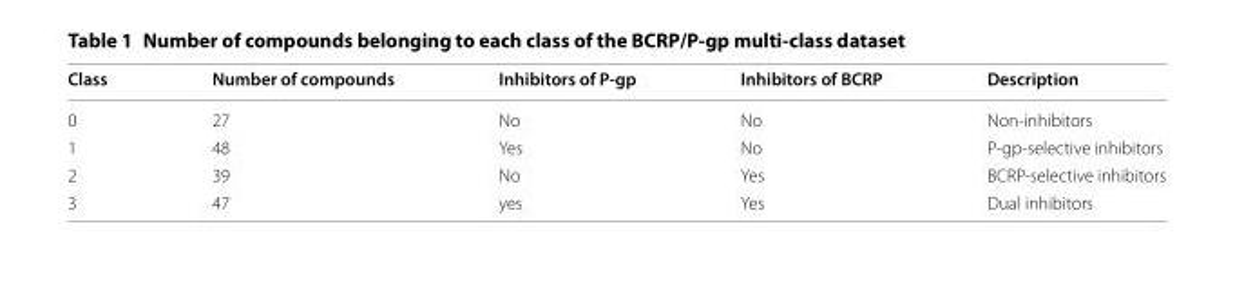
<table><thead><tr><td>Class</td><td>Number of compounds</td><td>Inhibitors of P-gp</td><td>Inhibitors of BCRP</td><td>Description</td></tr></thead><tbody><tr><td>0</td><td>27</td><td>No</td><td>No</td><td>Non-inhibitors</td></tr><tr><td>1</td><td>48</td><td>Yes</td><td>No</td><td>P-gp-selective inhibitors</td></tr><tr><td>2</td><td>39</td><td>No</td><td>Yes</td><td>BCRP-selective inhibitors</td></tr><tr><td>3</td><td>47</td><td>yes</td><td>Yes</td><td>Dual inhibitors</td></tr></tbody></table>